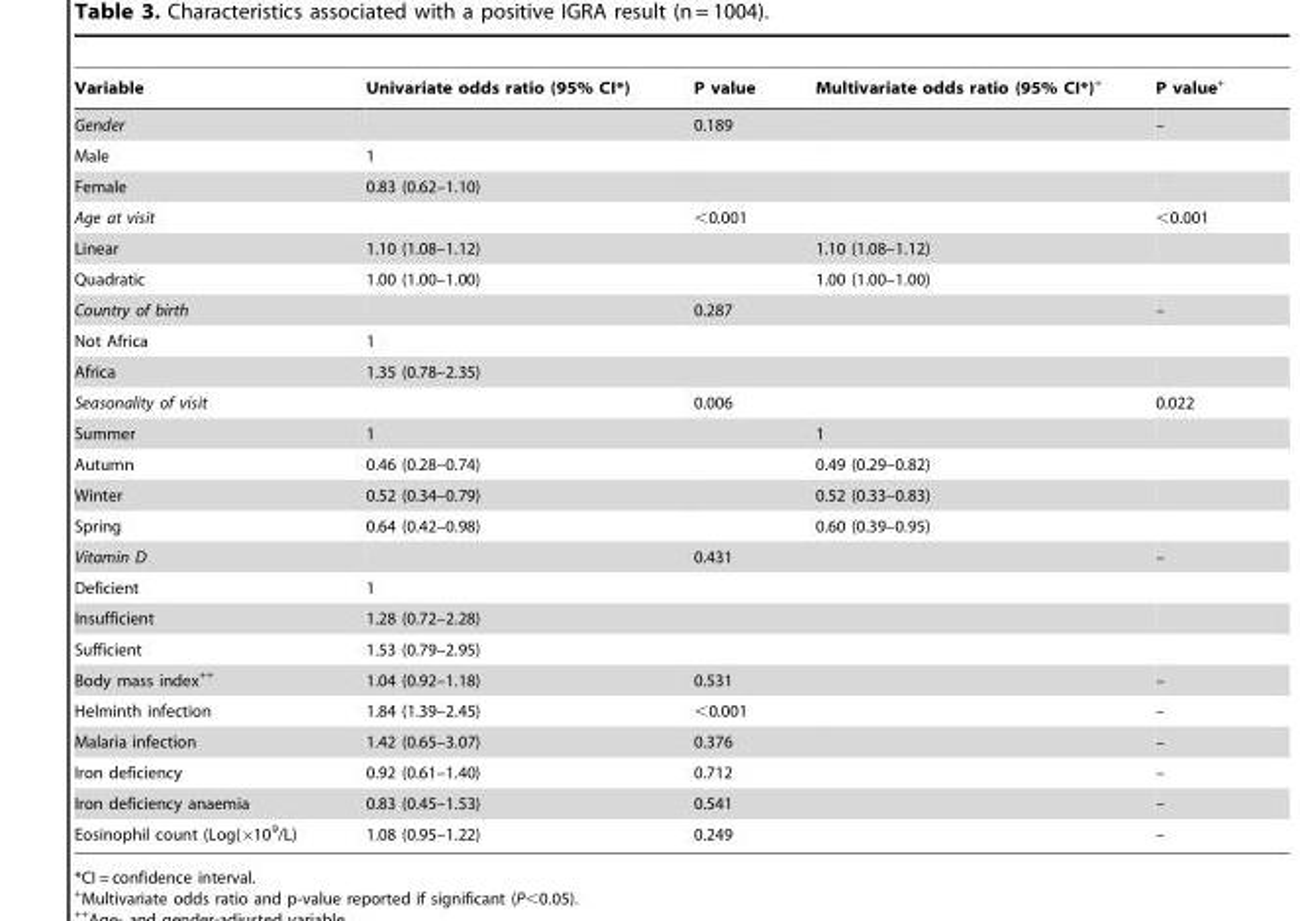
<table><thead><tr><td>Variable</td><td>Univariate odds ratio (95% CI*)</td><td>P value</td><td>Multivariate odds ratio (95% CI*)+</td><td>P value+</td></tr></thead><tbody><tr><td>Gender</td><td></td><td>0.189</td><td></td><td>–</td></tr><tr><td>Male</td><td>1</td><td></td><td></td><td></td></tr><tr><td>Female</td><td>0.83 (0.62–1.10)</td><td></td><td></td><td></td></tr><tr><td>Age at visit</td><td></td><td>&lt;0.001</td><td></td><td>&lt;0.001</td></tr><tr><td>Linear</td><td>1.10 (1.08–1.12)</td><td></td><td>1.10 (1.08–1.12)</td><td></td></tr><tr><td>Quadratic</td><td>1.00 (1.00–1.00)</td><td></td><td>1.00 (1.00–1.00)</td><td></td></tr><tr><td>Country of birth</td><td></td><td>0.287</td><td></td><td>–</td></tr><tr><td>Not Africa</td><td>1</td><td></td><td></td><td></td></tr><tr><td>Africa</td><td>1.35 (0.78–2.35)</td><td></td><td></td><td></td></tr><tr><td>Seasonality of visit</td><td></td><td>0.006</td><td></td><td>0.022</td></tr><tr><td>Summer</td><td>1</td><td></td><td>1</td><td></td></tr><tr><td>Autumn</td><td>0.46 (0.28–0.74)</td><td></td><td>0.49 (0.29–0.82)</td><td></td></tr><tr><td>Winter</td><td>0.52 (0.34–0.79)</td><td></td><td>0.52 (0.33–0.83)</td><td></td></tr><tr><td>Spring</td><td>0.64 (0.42–0.98)</td><td></td><td>0.60 (0.39–0.95)</td><td></td></tr><tr><td>Vitamin D</td><td></td><td>0.431</td><td></td><td>–</td></tr><tr><td>Deficient</td><td>1</td><td></td><td></td><td></td></tr><tr><td>Insufficient</td><td>1.28 (0.72–2.28)</td><td></td><td></td><td></td></tr><tr><td>Sufficient</td><td>1.53 (0.79–2.95)</td><td></td><td></td><td></td></tr><tr><td>Body mass index++</td><td>1.04 (0.92–1.18)</td><td>0.531</td><td></td><td>–</td></tr><tr><td>Helminth infection</td><td>1.84 (1.39–2.45)</td><td>&lt;0.001</td><td></td><td>–</td></tr><tr><td>Malaria infection</td><td>1.42 (0.65–3.07)</td><td>0.376</td><td></td><td>–</td></tr><tr><td>Iron deficiency</td><td>0.92 (0.61–1.40)</td><td>0.712</td><td></td><td>–</td></tr><tr><td>Iron deficiency anaemia</td><td>0.83 (0.45–1.53)</td><td>0.541</td><td></td><td>–</td></tr><tr><td>Eosinophil count (Log(×10<sup>9</sup>/L)</td><td>1.08 (0.95–1.22)</td><td>0.249</td><td></td><td>–</td></tr></tbody></table>